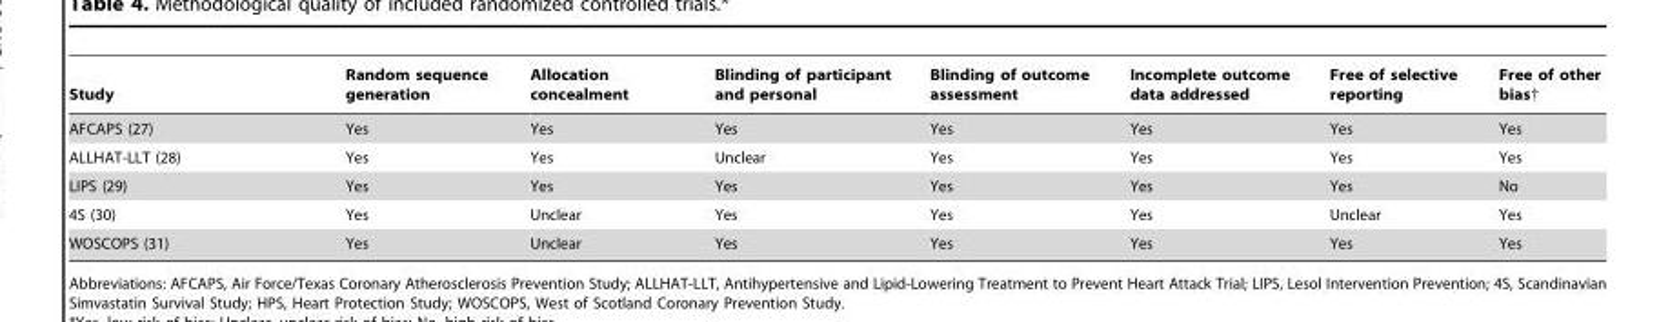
<table><thead><tr><td>Study</td><td>Random sequence generation</td><td>Allocation concealment</td><td>Blinding of participant and personal</td><td>Blinding of outcome assessment</td><td>Incomplete outcome data addressed</td><td>Free of selective reporting</td><td>Free of other bias†</td></tr></thead><tbody><tr><td>AFCAPS (27)</td><td>Yes</td><td>Yes</td><td>Yes</td><td>Yes</td><td>Yes</td><td>Yes</td><td>Yes</td></tr><tr><td>ALLHAT-LLT (28)</td><td>Yes</td><td>Yes</td><td>Unclear</td><td>Yes</td><td>Yes</td><td>Yes</td><td>Yes</td></tr><tr><td>LIPS (29)</td><td>Yes</td><td>Yes</td><td>Yes</td><td>Yes</td><td>Yes</td><td>Yes</td><td>No</td></tr><tr><td>4S (30)</td><td>Yes</td><td>Unclear</td><td>Yes</td><td>Yes</td><td>Yes</td><td>Unclear</td><td>Yes</td></tr><tr><td>WOSCOPS (31)</td><td>Yes</td><td>Unclear</td><td>Yes</td><td>Yes</td><td>Yes</td><td>Yes</td><td>Yes</td></tr></tbody></table>